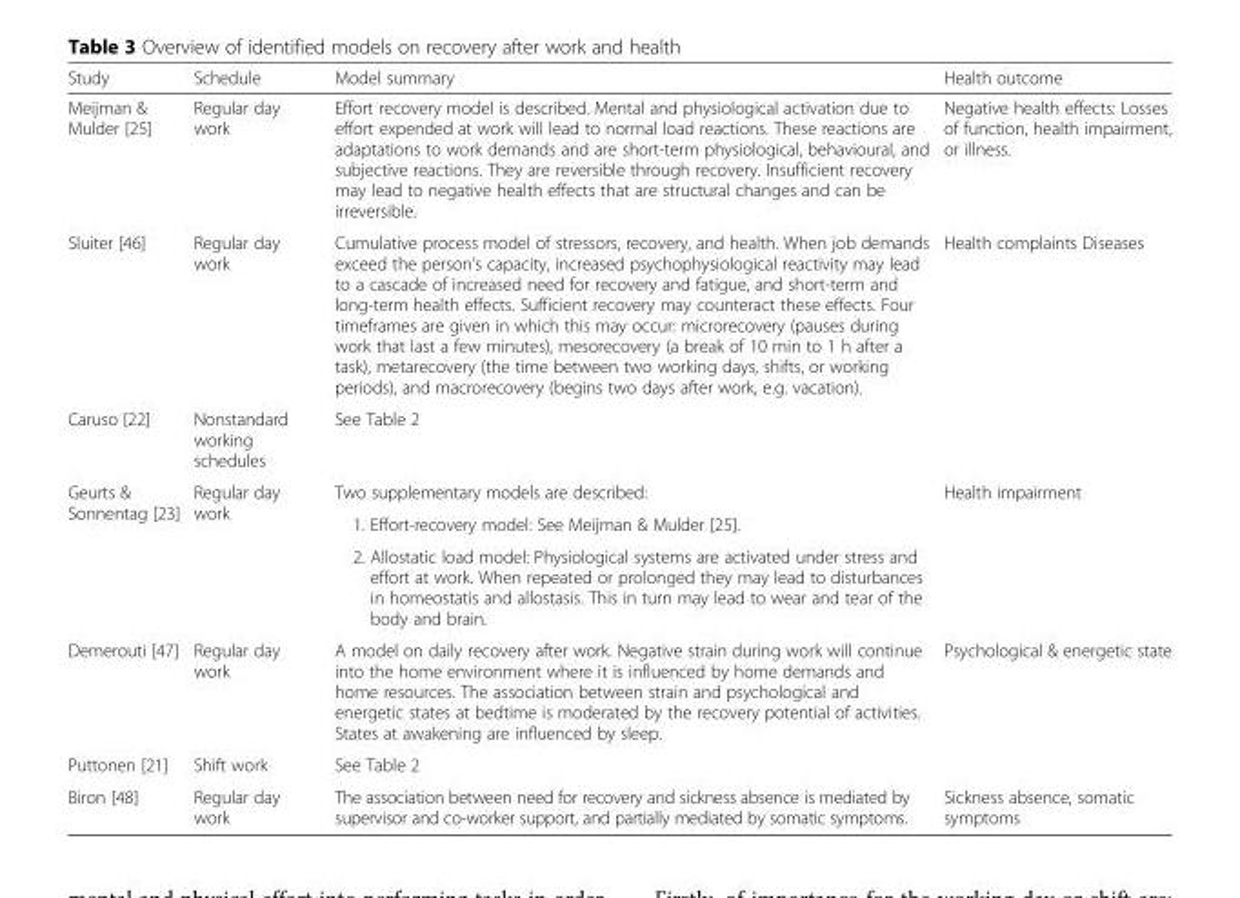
<table><thead><tr><td>Study</td><td>Schedule</td><td>Model summary</td><td>Health outcome</td></tr></thead><tbody><tr><td>Meijman &amp; Mulder [25]</td><td>Regular day work</td><td>Effort recovery model is described. Mental and physiological activation due to effort expended at work will lead to normal load reactions. These reactions are adaptations to work demands and are short-term physiological, behavioural, and subjective reactions. They are reversible through recovery. Insufficient recovery may lead to negative health effects that are structural changes and can be irreversible.</td><td>Negative health effects: Losses of function, health impairment, or illness.</td></tr><tr><td>Sluiter [46]</td><td>Regular day work</td><td>Cumulative process model of stressors, recovery, and health. When job demands exceed the person’s capacity, increased psychophysiological reactivity may lead to a cascade of increased need for recovery and fatigue, and short-term and long-term health effects. Sufficient recovery may counteract these effects. Four timeframes are given in which this may occur: microrecovery (pauses during work that last a few minutes), mesorecovery (a break of 10 min to 1 h after a task), metarecovery (the time between two working days, shifts, or working periods), and macrorecovery (begins two days after work, e.g. vacation).</td><td>Health complaints Diseases</td></tr><tr><td>Caruso [22]</td><td>Nonstandard working schedules</td><td>See Table 2</td><td></td></tr><tr><td rowspan="3">Geurts &amp; Sonnentag [23]</td><td rowspan="3">Regular day work</td><td>Two supplementary models are described:</td><td rowspan="3">Health impairment</td></tr><tr><td>1. Effort-recovery model: See Meijman &amp; Mulder [25].</td></tr><tr><td>2. Allostatic load model: Physiological systems are activated under stress and effort at work. When repeated or prolonged they may lead to disturbances in homeostatis and allostasis. This in turn may lead to wear and tear of the body and brain.</td></tr><tr><td>Demerouti [47]</td><td>Regular day work</td><td>A model on daily recovery after work. Negative strain during work will continue into the home environment where it is influenced by home demands and home resources. The association between strain and psychological and energetic states at bedtime is moderated by the recovery potential of activities. States at awakening are influenced by sleep.</td><td>Psychological &amp; energetic state</td></tr><tr><td>Puttonen [21]</td><td>Shift work</td><td>See Table 2</td><td></td></tr><tr><td>Biron [48]</td><td>Regular day work</td><td>The association between need for recovery and sickness absence is mediated by supervisor and co-worker support, and partially mediated by somatic symptoms.</td><td>Sickness absence, somatic symptoms</td></tr></tbody></table>